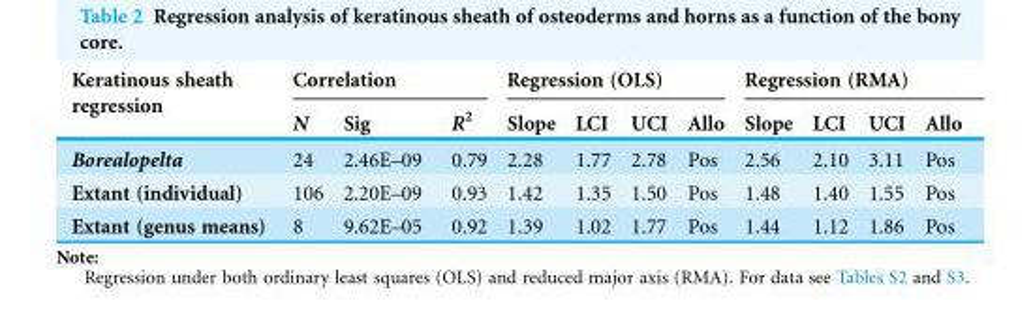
<table><thead><tr><td rowspan="2">Keratinous sheath regression</td><td colspan="3">Correlation</td><td colspan="4">Regression (OLS)</td><td colspan="4">Regression (RMA)</td></tr><tr><td>N</td><td>Sig</td><td>R<sup>2</sup></td><td>Slope</td><td>LCI</td><td>UCI</td><td>Allo</td><td>Slope</td><td>LCI</td><td>UCI</td><td>Allo</td></tr></thead><tbody><tr><td>Borealopelta</td><td>24</td><td>2.46E–09</td><td>0.79</td><td>2.28</td><td>1.77</td><td>2.78</td><td>Pos</td><td>2.56</td><td>2.10</td><td>3.11</td><td>Pos</td></tr><tr><td>Extant (individual)</td><td>106</td><td>2.20E–09</td><td>0.93</td><td>1.42</td><td>1.35</td><td>1.50</td><td>Pos</td><td>1.48</td><td>1.40</td><td>1.55</td><td>Pos</td></tr><tr><td>Extant (genus means)</td><td>8</td><td>9.62E–05</td><td>0.92</td><td>1.39</td><td>1.02</td><td>1.77</td><td>Pos</td><td>1.44</td><td>1.12</td><td>1.86</td><td>Pos</td></tr></tbody></table>